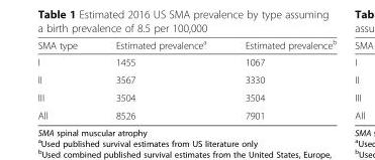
<table><thead><tr><td>SMA type</td><td>Estimated prevalence<sup>a</sup></td><td>Estimated prevalence<sup>b</sup></td></tr></thead><tbody><tr><td>I</td><td>1455</td><td>1067</td></tr><tr><td>II</td><td>3567</td><td>3330</td></tr><tr><td>III</td><td>3504</td><td>3504</td></tr><tr><td>All</td><td>8526</td><td>7901</td></tr></tbody></table>